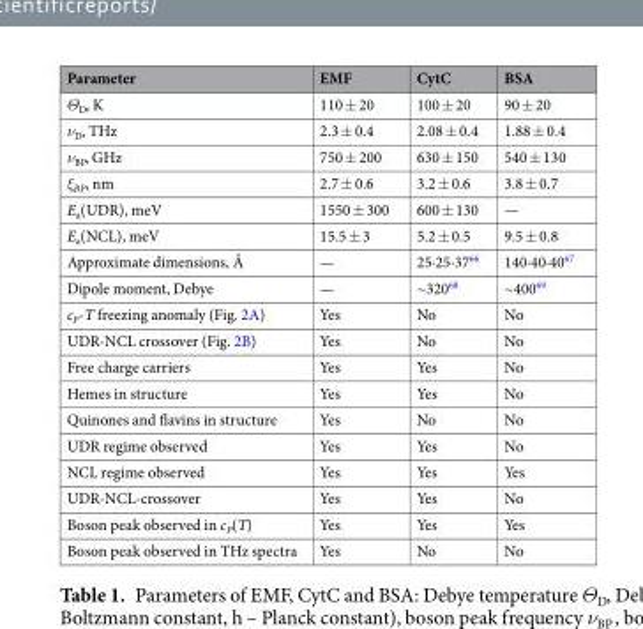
<table><thead><tr><td>Parameter</td><td>EMF</td><td>CytC</td><td>BSA</td></tr></thead><tbody><tr><td>Θ<sub>D</sub>, K</td><td>110 ± 20</td><td>100 ± 20</td><td>90 ± 20</td></tr><tr><td>ν<sub>D</sub>, THz</td><td>2.3 ± 0.4</td><td>2.08 ± 0.4</td><td>1.88 ± 0.4</td></tr><tr><td>ν<sub>BP</sub>, GHz</td><td>750 ± 200</td><td>630 ± 150</td><td>540 ± 130</td></tr><tr><td>ξ<sub>BP</sub>, nm</td><td>2.7 ± 0.6</td><td>3.2 ± 0.6</td><td>3.8 ± 0.7</td></tr><tr><td>E<sub>a</sub>(UDR), meV</td><td>1550 ± 300</td><td>600 ± 130</td><td>—</td></tr><tr><td>E<sub>a</sub>(NCL), meV</td><td>15.5 ± 3</td><td>5.2 ± 0.5</td><td>9.5 ± 0.8</td></tr><tr><td>Approximate dimensions, Å</td><td>—</td><td>25·25·37<sup>66</sup></td><td>140·40·40<sup>67</sup></td></tr><tr><td>Dipole moment, Debye</td><td>—</td><td>~320<sup>68</sup></td><td>~400<sup>69</sup></td></tr><tr><td>c<sub>P</sub>-T freezing anomaly (Fig. 2A)</td><td>Yes</td><td>No</td><td>No</td></tr><tr><td>UDR-NCL crossover (Fig. 2B)</td><td>Yes</td><td>No</td><td>No</td></tr><tr><td>Free charge carriers</td><td>Yes</td><td>Yes</td><td>No</td></tr><tr><td>Hemes in structure</td><td>Yes</td><td>Yes</td><td>No</td></tr><tr><td>Quinones and flavins in structure</td><td>Yes</td><td>No</td><td>No</td></tr><tr><td>UDR regime observed</td><td>Yes</td><td>Yes</td><td>No</td></tr><tr><td>NCL regime observed</td><td>Yes</td><td>Yes</td><td>Yes</td></tr><tr><td>UDR-NCL-crossover</td><td>Yes</td><td>Yes</td><td>No</td></tr><tr><td>Boson peak observed in c<sub>P</sub>(T)</td><td>Yes</td><td>Yes</td><td>Yes</td></tr><tr><td>Boson peak observed in THz spectra</td><td>Yes</td><td>No</td><td>No</td></tr></tbody></table>